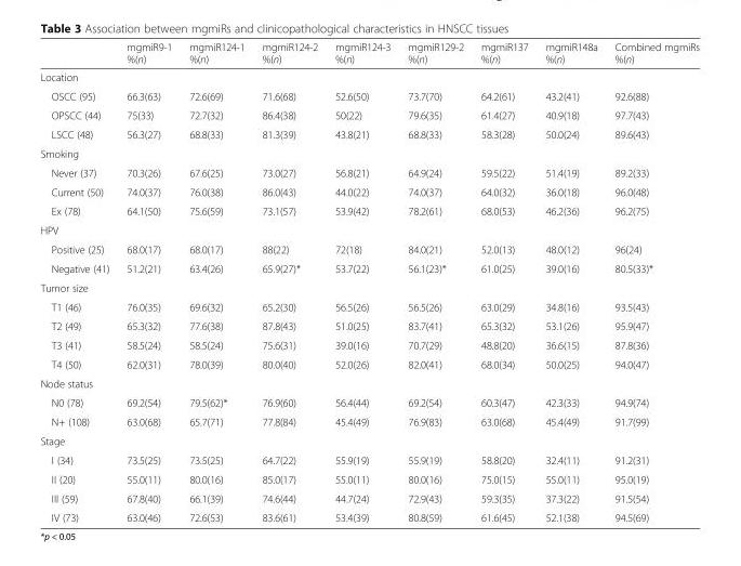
<table><thead><tr><td></td><td>mgmiR9-1 %(n)</td><td>mgmiR124-1 %(n)</td><td>mgmiR124-2 %(n)</td><td>mgmiR124-3 %(n)</td><td>mgmiR129-2 %(n)</td><td>mgmiR137 %(n)</td><td>mgmiR148a %(n)</td><td>Combined mgmiRs %(n)</td></tr></thead><tbody><tr><td colspan="9">Location</td></tr><tr><td>OSCC (95)</td><td>66.3(63)</td><td>72.6(69)</td><td>71.6(68)</td><td>52.6(50)</td><td>73.7(70)</td><td>64.2(61)</td><td>43.2(41)</td><td>92.6(88)</td></tr><tr><td>OPSCC (44)</td><td>75(33)</td><td>72.7(32)</td><td>86.4(38)</td><td>50(22)</td><td>79.6(35)</td><td>61.4(27)</td><td>40.9(18)</td><td>97.7(43)</td></tr><tr><td>LSCC (48)</td><td>56.3(27)</td><td>68.8(33)</td><td>81.3(39)</td><td>43.8(21)</td><td>68.8(33)</td><td>58.3(28)</td><td>50.0(24)</td><td>89.6(43)</td></tr><tr><td colspan="9">Smoking</td></tr><tr><td>Never (37)</td><td>70.3(26)</td><td>67.6(25)</td><td>73.0(27)</td><td>56.8(21)</td><td>64.9(24)</td><td>59.5(22)</td><td>51.4(19)</td><td>89.2(33)</td></tr><tr><td>Current (50)</td><td>74.0(37)</td><td>76.0(38)</td><td>86.0(43)</td><td>44.0(22)</td><td>74.0(37)</td><td>64.0(32)</td><td>36.0(18)</td><td>96.0(48)</td></tr><tr><td>Ex (78)</td><td>64.1(50)</td><td>75.6(59)</td><td>73.1(57)</td><td>53.9(42)</td><td>78.2(61)</td><td>68.0(53)</td><td>46.2(36)</td><td>96.2(75)</td></tr><tr><td colspan="9">HPV</td></tr><tr><td>Positive (25)</td><td>68.0(17)</td><td>68.0(17)</td><td>88(22)</td><td>72(18)</td><td>84.0(21)</td><td>52.0(13)</td><td>48.0(12)</td><td>96(24)</td></tr><tr><td>Negative (41)</td><td>51.2(21)</td><td>63.4(26)</td><td>65.9(27)*</td><td>53.7(22)</td><td>56.1(23)*</td><td>61.0(25)</td><td>39.0(16)</td><td>80.5(33)*</td></tr><tr><td colspan="9">Tumor size</td></tr><tr><td>T1 (46)</td><td>76.0(35)</td><td>69.6(32)</td><td>65.2(30)</td><td>56.5(26)</td><td>56.5(26)</td><td>63.0(29)</td><td>34.8(16)</td><td>93.5(43)</td></tr><tr><td>T2 (49)</td><td>65.3(32)</td><td>77.6(38)</td><td>87.8(43)</td><td>51.0(25)</td><td>83.7(41)</td><td>65.3(32)</td><td>53.1(26)</td><td>95.9(47)</td></tr><tr><td>T3 (41)</td><td>58.5(24)</td><td>58.5(24)</td><td>75.6(31)</td><td>39.0(16)</td><td>70.7(29)</td><td>48.8(20)</td><td>36.6(15)</td><td>87.8(36)</td></tr><tr><td>T4 (50)</td><td>62.0(31)</td><td>78.0(39)</td><td>80.0(40)</td><td>52.0(26)</td><td>82.0(41)</td><td>68.0(34)</td><td>50.0(25)</td><td>94.0(47)</td></tr><tr><td colspan="9">Node status</td></tr><tr><td>N0 (78)</td><td>69.2(54)</td><td>79.5(62)*</td><td>76.9(60)</td><td>56.4(44)</td><td>69.2(54)</td><td>60.3(47)</td><td>42.3(33)</td><td>94.9(74)</td></tr><tr><td>N+ (108)</td><td>63.0(68)</td><td>65.7(71)</td><td>77.8(84)</td><td>45.4(49)</td><td>76.9(83)</td><td>63.0(68)</td><td>45.4(49)</td><td>91.7(99)</td></tr><tr><td colspan="9">Stage</td></tr><tr><td>I (34)</td><td>73.5(25)</td><td>73.5(25)</td><td>64.7(22)</td><td>55.9(19)</td><td>55.9(19)</td><td>58.8(20)</td><td>32.4(11)</td><td>91.2(31)</td></tr><tr><td>II (20)</td><td>55.0(11)</td><td>80.0(16)</td><td>85.0(17)</td><td>55.0(11)</td><td>80.0(16)</td><td>75.0(15)</td><td>55.0(11)</td><td>95.0(19)</td></tr><tr><td>III (59)</td><td>67.8(40)</td><td>66.1(39)</td><td>74.6(44)</td><td>44.7(24)</td><td>72.9(43)</td><td>59.3(35)</td><td>37.3(22)</td><td>91.5(54)</td></tr><tr><td>IV (73)</td><td>63.0(46)</td><td>72.6(53)</td><td>83.6(61)</td><td>53.4(39)</td><td>80.8(59)</td><td>61.6(45)</td><td>52.1(38)</td><td>94.5(69)</td></tr></tbody></table>